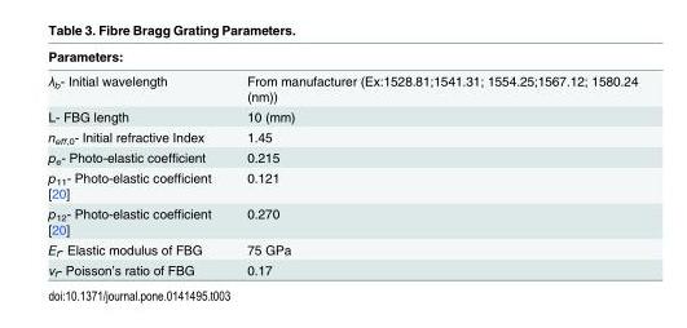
<table><thead><tr><td>Parameters:</td><td></td></tr></thead><tbody><tr><td>λ<sub>b</sub>- Initial wavelength</td><td>From manufacturer (Ex:1528.81;1541.31; 1554.25;1567.12; 1580.24 (nm))</td></tr><tr><td>L- FBG length</td><td>10 (mm)</td></tr><tr><td>n<sub>eff,0</sub>- Initial refractive Index</td><td>1.45</td></tr><tr><td>p<sub>e</sub>- Photo-elastic coefficient</td><td>0.215</td></tr><tr><td>p<sub>11</sub>- Photo-elastic coefficient [20]</td><td>0.121</td></tr><tr><td>p<sub>12</sub>- Photo-elastic coefficient [20]</td><td>0.270</td></tr><tr><td>E<sub>f</sub>- Elastic modulus of FBG</td><td>75 GPa</td></tr><tr><td>ν<sub>f</sub>- Poisson’s ratio of FBG</td><td>0.17</td></tr></tbody></table>